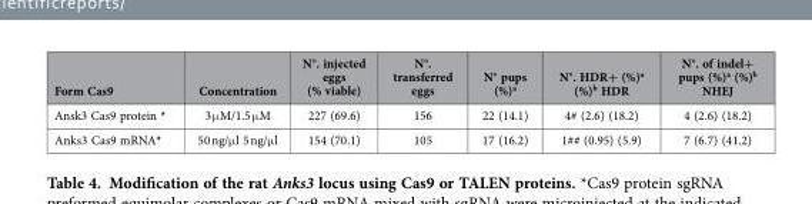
<table><thead><tr><td>Form Cas9</td><td>Concentration</td><td>N°. injected eggs (% viable)</td><td>N°. transferred eggs</td><td>N° pups (%)<sup>a</sup></td><td>N°. HDR+ (%)<sup>a</sup> (%)<sup>b</sup> HDR</td><td>N°. of indel+ pups (%)<sup>a</sup> (%)<sup>b</sup> NHEJ</td></tr></thead><tbody><tr><td>Ansk3 Cas9 protein *</td><td>3 μ M/1.5 μ M</td><td>227 (69.6)</td><td>156</td><td>22 (14.1)</td><td>4# (2.6) (18.2)</td><td>4 (2.6) (18.2)</td></tr><tr><td>Anks3 Cas9 mRNA*</td><td>50 ng/μ l 5 ng/μ l</td><td>154 (70.1)</td><td>105</td><td>17 (16.2)</td><td>1## (0.95) (5.9)</td><td>7 (6.7) (41.2)</td></tr></tbody></table>